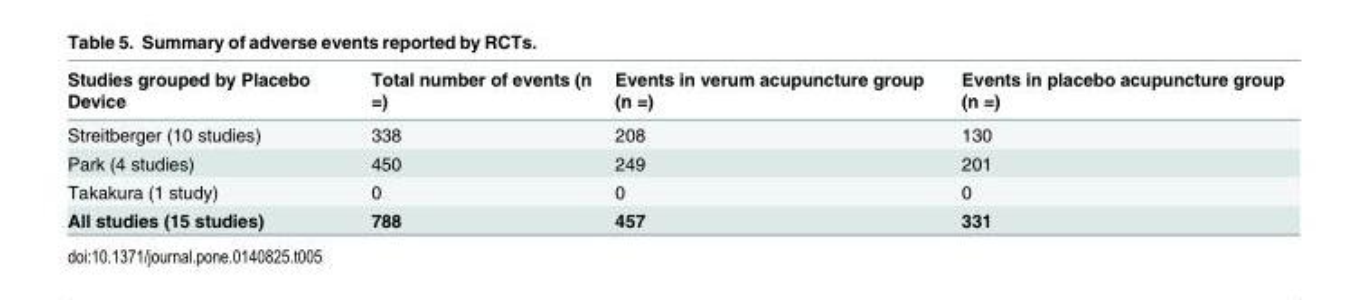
<table><thead><tr><td>Studies grouped by Placebo Device</td><td>Total number of events (n =)</td><td>Events in verum acupuncture group (n =)</td><td>Events in placebo acupuncture group (n =)</td></tr></thead><tbody><tr><td>Streitberger (10 studies)</td><td>338</td><td>208</td><td>130</td></tr><tr><td>Park (4 studies)</td><td>450</td><td>249</td><td>201</td></tr><tr><td>Takakura (1 study)</td><td>0</td><td>0</td><td>0</td></tr><tr><td>All studies (15 studies)</td><td>788</td><td>457</td><td>331</td></tr></tbody></table>